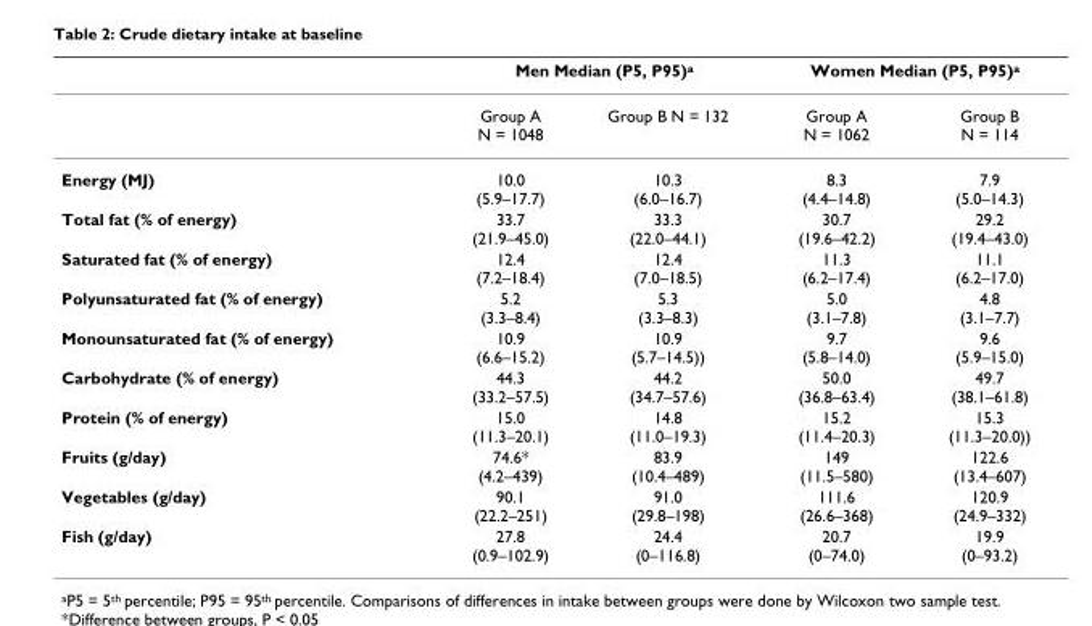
<table><thead><tr><td rowspan="2"></td><td colspan="2">Men Median (P5, P95)<sup>a</sup></td><td colspan="2">Women Median (P5, P95)<sup>a</sup></td></tr><tr><td>Group A N = 1048</td><td>Group B N = 132</td><td>Group A N = 1062</td><td>Group B N = 114</td></tr></thead><tbody><tr><td>Energy (MJ)</td><td>10.0 (5.9–17.7)</td><td>10.3 (6.0–16.7)</td><td>8.3 (4.4–14.8)</td><td>7.9 (5.0–14.3)</td></tr><tr><td>Total fat (% of energy)</td><td>33.7 (21.9–45.0)</td><td>33.3 (22.0–44.1)</td><td>30.7 (19.6–42.2)</td><td>29.2 (19.4–43.0)</td></tr><tr><td>Saturated fat (% of energy)</td><td>12.4 (7.2–18.4)</td><td>12.4 (7.0–18.5)</td><td>11.3 (6.2–17.4)</td><td>11.1 (6.2–17.0)</td></tr><tr><td>Polyunsaturated fat (% of energy)</td><td>5.2 (3.3–8.4)</td><td>5.3 (3.3–8.3)</td><td>5.0 (3.1–7.8)</td><td>4.8 (3.1–7.7)</td></tr><tr><td>Monounsaturated fat (% of energy)</td><td>10.9 (6.6–15.2)</td><td>10.9 (5.7–14.5))</td><td>9.7 (5.8–14.0)</td><td>9.6 (5.9–15.0)</td></tr><tr><td>Carbohydrate (% of energy)</td><td>44.3 (33.2–57.5)</td><td>44.2 (34.7–57.6)</td><td>50.0 (36.8–63.4)</td><td>49.7 (38.1–61.8)</td></tr><tr><td>Protein (% of energy)</td><td>15.0 (11.3–20.1)</td><td>14.8 (11.0–19.3)</td><td>15.2 (11.4–20.3)</td><td>15.3 (11.3–20.0))</td></tr><tr><td>Fruits (g/day)</td><td>74.6* (4.2–439)</td><td>83.9 (10.4–489)</td><td>149 (11.5–580)</td><td>122.6 (13.4–607)</td></tr><tr><td>Vegetables (g/day)</td><td>90.1 (22.2–251)</td><td>91.0 (29.8–198)</td><td>111.6 (26.6–368)</td><td>120.9 (24.9–332)</td></tr><tr><td>Fish (g/day)</td><td>27.8 (0.9–102.9)</td><td>24.4 (0–116.8)</td><td>20.7 (0–74.0)</td><td>19.9 (0–93.2)</td></tr></tbody></table>